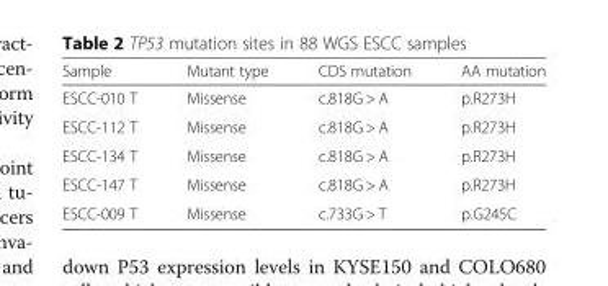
<table><thead><tr><td>Sample</td><td>Mutant type</td><td>CDS mutation</td><td>AA mutation</td></tr></thead><tbody><tr><td>ESCC-010 T</td><td>Missense</td><td>c.818G &gt; A</td><td>p.R273H</td></tr><tr><td>ESCC-112 T</td><td>Missense</td><td>c.818G &gt; A</td><td>p.R273H</td></tr><tr><td>ESCC-134 T</td><td>Missense</td><td>c.818G &gt; A</td><td>p.R273H</td></tr><tr><td>ESCC-147 T</td><td>Missense</td><td>c.818G &gt; A</td><td>p.R273H</td></tr><tr><td>ESCC-009 T</td><td>Missense</td><td>c.733G &gt; T</td><td>p.G245C</td></tr></tbody></table>